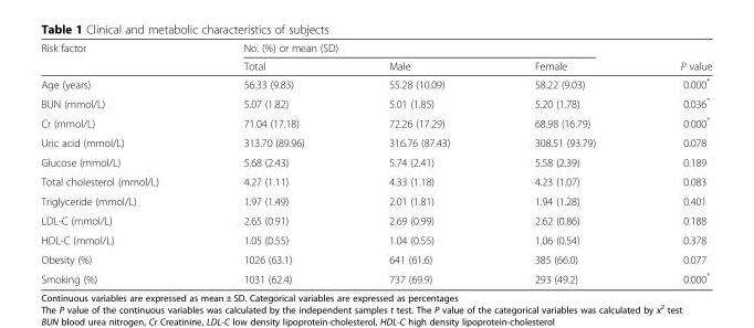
<table><thead><tr><td rowspan="2">Risk factor</td><td colspan="3">No. (%) or mean (SD)</td><td rowspan="2">P value</td></tr><tr><td>Total</td><td>Male</td><td>Female</td></tr></thead><tbody><tr><td>Age (years)</td><td>56.33 (9.83)</td><td>55.28 (10.09)</td><td>58.22 (9.03)</td><td>0.000*</td></tr><tr><td>BUN (mmol/L)</td><td>5.07 (1.82)</td><td>5.01 (1.85)</td><td>5.20 (1.78)</td><td>0.036*</td></tr><tr><td>Cr (mmol/L)</td><td>71.04 (17.18)</td><td>72.26 (17.29)</td><td>68.98 (16.79)</td><td>0.000*</td></tr><tr><td>Uric acid (mmol/L)</td><td>313.70 (89.96)</td><td>316.76 (87.43)</td><td>308.51 (93.79)</td><td>0.078</td></tr><tr><td>Glucose (mmol/L)</td><td>5.68 (2.43)</td><td>5.74 (2.41)</td><td>5.58 (2.39)</td><td>0.189</td></tr><tr><td>Total cholesterol (mmol/L)</td><td>4.27 (1.11)</td><td>4.33 (1.18)</td><td>4.23 (1.07)</td><td>0.083</td></tr><tr><td>Triglyceride (mmol/L)</td><td>1.97 (1.49)</td><td>2.01 (1.81)</td><td>1.94 (1.28)</td><td>0.401</td></tr><tr><td>LDL-C (mmol/L)</td><td>2.65 (0.91)</td><td>2.69 (0.99)</td><td>2.62 (0.86)</td><td>0.188</td></tr><tr><td>HDL-C (mmol/L)</td><td>1.05 (0.55)</td><td>1.04 (0.55)</td><td>1.06 (0.54)</td><td>0.378</td></tr><tr><td>Obesity (%)</td><td>1026 (63.1)</td><td>641 (61.6)</td><td>385 (66.0)</td><td>0.077</td></tr><tr><td>Smoking (%)</td><td>1031 (62.4)</td><td>737 (69.9)</td><td>293 (49.2)</td><td>0.000*</td></tr></tbody></table>